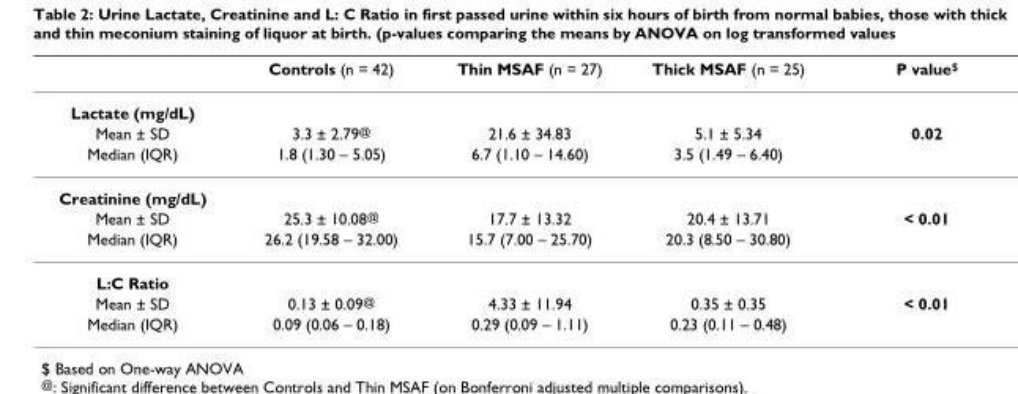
<table><thead><tr><td></td><td>Controls (n = 42)</td><td>Thin MSAF (n = 27)</td><td>Thick MSAF (n = 25)</td><td>P value<sup>$</sup></td></tr></thead><tbody><tr><td colspan="5">Lactate (mg/dL)</td></tr><tr><td>Mean ± SD</td><td>3.3 ± 2.79<sup>@</sup></td><td>21.6 ± 34.83</td><td>5.1 ± 5.34</td><td>0.02</td></tr><tr><td>Median (IQR)</td><td>1.8 (1.30 – 5.05)</td><td>6.7 (1.10 – 14.60)</td><td>3.5 (1.49 – 6.40)</td><td></td></tr><tr><td colspan="5">Creatinine (mg/dL)</td></tr><tr><td>Mean ± SD</td><td>25.3 ± 10.08<sup>@</sup></td><td>17.7 ± 13.32</td><td>20.4 ± 13.71</td><td>&lt; 0.01</td></tr><tr><td>Median (IQR)</td><td>26.2 (19.58 – 32.00)</td><td>15.7 (7.00 – 25.70)</td><td>20.3 (8.50 – 30.80)</td><td></td></tr><tr><td colspan="5">L:C Ratio</td></tr><tr><td>Mean ± SD</td><td>0.13 ± 0.09<sup>@</sup></td><td>4.33 ± 11.94</td><td>0.35 ± 0.35</td><td>&lt; 0.01</td></tr><tr><td>Median (IQR)</td><td>0.09 (0.06 – 0.18)</td><td>0.29 (0.09 – 1.11)</td><td>0.23 (0.11 – 0.48)</td><td></td></tr></tbody></table>